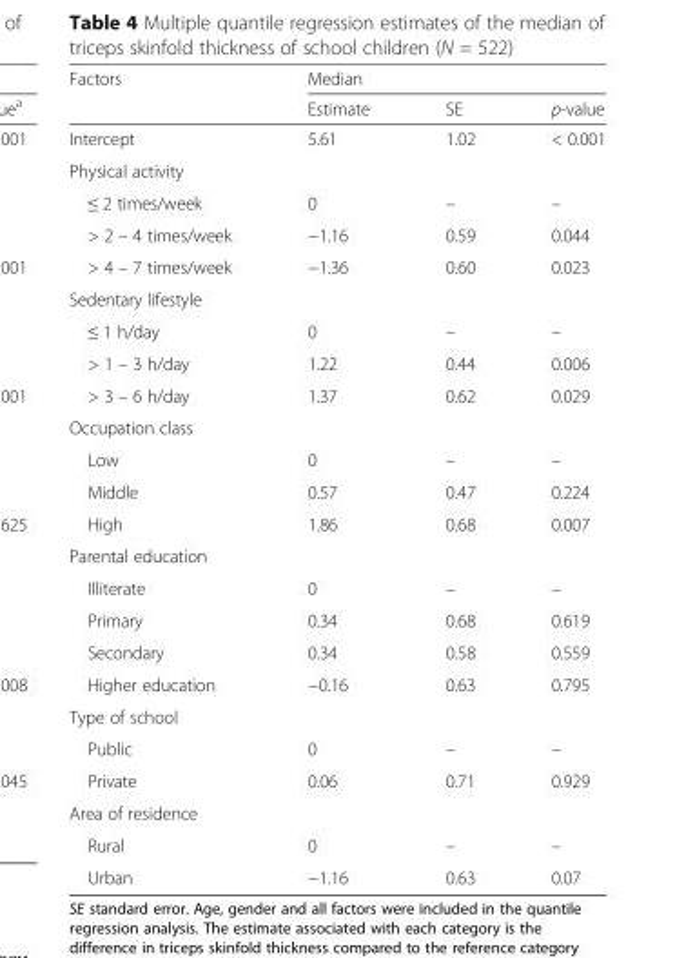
<table><thead><tr><td rowspan="2">Factors</td><td colspan="3">Median</td></tr><tr><td>Estimate</td><td>SE</td><td>p-value</td></tr></thead><tbody><tr><td>Intercept</td><td>5.61</td><td>1.02</td><td>&lt; 0.001</td></tr><tr><td colspan="4">Physical activity</td></tr><tr><td>≤ 2 times/week</td><td>0</td><td>–</td><td>–</td></tr><tr><td>&gt; 2 – 4 times/week</td><td>−1.16</td><td>0.59</td><td>0.044</td></tr><tr><td>&gt; 4 – 7 times/week</td><td>−1.36</td><td>0.60</td><td>0.023</td></tr><tr><td colspan="4">Sedentary lifestyle</td></tr><tr><td>≤ 1 h/day</td><td>0</td><td>–</td><td>–</td></tr><tr><td>&gt; 1 – 3 h/day</td><td>1.22</td><td>0.44</td><td>0.006</td></tr><tr><td>&gt; 3 – 6 h/day</td><td>1.37</td><td>0.62</td><td>0.029</td></tr><tr><td colspan="4">Occupation class</td></tr><tr><td>Low</td><td>0</td><td>–</td><td>–</td></tr><tr><td>Middle</td><td>0.57</td><td>0.47</td><td>0.224</td></tr><tr><td>High</td><td>1.86</td><td>0.68</td><td>0.007</td></tr><tr><td colspan="4">Parental education</td></tr><tr><td>Illiterate</td><td>0</td><td>–</td><td>–</td></tr><tr><td>Primary</td><td>0.34</td><td>0.68</td><td>0.619</td></tr><tr><td>Secondary</td><td>0.34</td><td>0.58</td><td>0.559</td></tr><tr><td>Higher education</td><td>−0.16</td><td>0.63</td><td>0.795</td></tr><tr><td colspan="4">Type of school</td></tr><tr><td>Public</td><td>0</td><td>–</td><td>–</td></tr><tr><td>Private</td><td>0.06</td><td>0.71</td><td>0.929</td></tr><tr><td colspan="4">Area of residence</td></tr><tr><td>Rural</td><td>0</td><td>–</td><td>–</td></tr><tr><td>Urban</td><td>−1.16</td><td>0.63</td><td>0.07</td></tr></tbody></table>